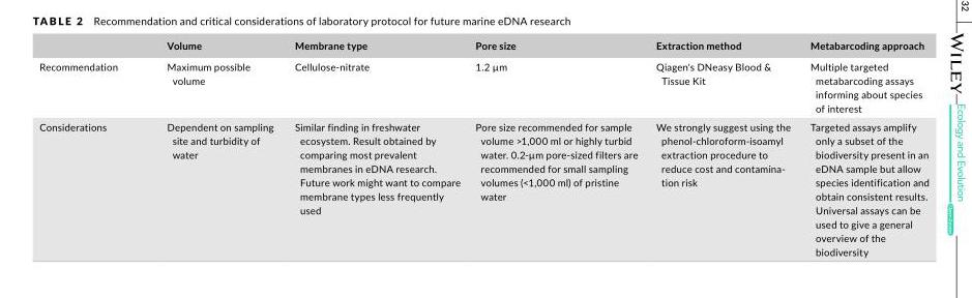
<table><thead><tr><td></td><td>Volume</td><td>Membrane type</td><td>Pore size</td><td>Extraction method</td><td>Metabarcoding approach</td></tr></thead><tbody><tr><td>Recommendation</td><td>Maximum possible volume</td><td>Cellulose‐nitrate</td><td>1.2 µm</td><td>Qiagen&#x27;s DNeasy Blood &amp; Tissue Kit</td><td>Multiple targeted metabarcoding assays informing about species of interest</td></tr><tr><td>Considerations</td><td>Dependent on sampling site and turbidity of water</td><td>Similar finding in freshwater ecosystem. Result obtained by comparing most prevalent membranes in eDNA research. Future work might want to compare membrane types less frequently used</td><td>Pore size recommended for sample volume &gt;1,000 ml or highly turbid water. 0.2‐µm pore‐sized filters are recommended for small sampling volumes (&lt;1,000 ml) of pristine water</td><td>We strongly suggest using the phenol‐chloroform‐isoamyl extraction procedure to reduce cost and contamina- tion risk</td><td>Targeted assays amplify only a subset of the biodiversity present in an eDNA sample but allow species identification and obtain consistent results. Universal assays can be used to give a general overview of the biodiversity</td></tr></tbody></table>